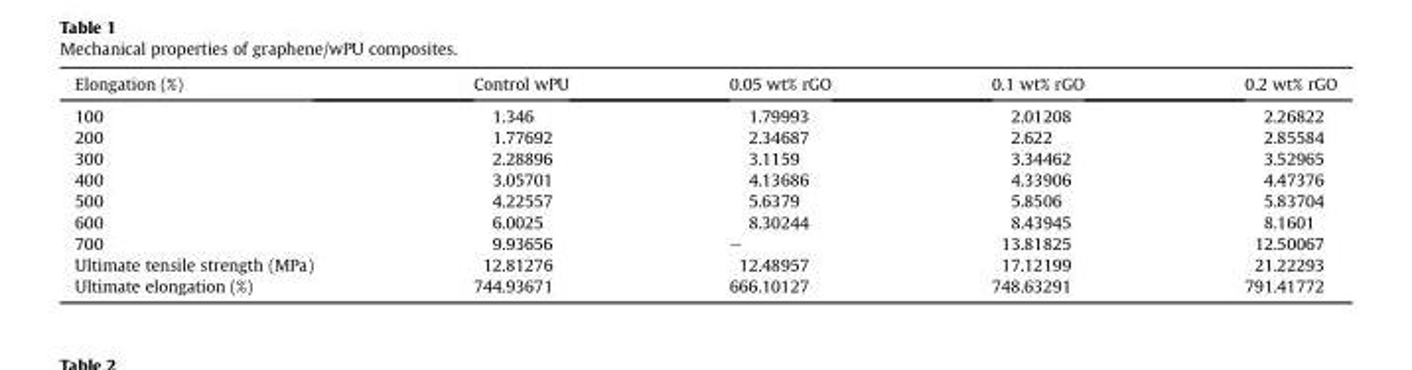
<table><thead><tr><td>Elongation (%)</td><td>Control wPU</td><td>0.05 wt% rGO</td><td>0.1 wt% rGO</td><td>0.2 wt% rGO</td></tr></thead><tbody><tr><td>100</td><td>1.346</td><td>1.79993</td><td>2.01208</td><td>2.26822</td></tr><tr><td>200</td><td>1.77692</td><td>2.34687</td><td>2.622</td><td>2.85584</td></tr><tr><td>300</td><td>2.28896</td><td>3.1159</td><td>3.34462</td><td>3.52965</td></tr><tr><td>400</td><td>3.05701</td><td>4.13686</td><td>4.33906</td><td>4.47376</td></tr><tr><td>500</td><td>4.22557</td><td>5.6379</td><td>5.8506</td><td>5.83704</td></tr><tr><td>600</td><td>6.0025</td><td>8.30244</td><td>8.43945</td><td>8.1601</td></tr><tr><td>700</td><td>9.93656</td><td>–</td><td>13.81825</td><td>12.50067</td></tr><tr><td>Ultimate tensile strength (MPa)</td><td>12.81276</td><td>12.48957</td><td>17.12199</td><td>21.22293</td></tr><tr><td>Ultimate elongation (%)</td><td>744.93671</td><td>666.10127</td><td>748.63291</td><td>791.41772</td></tr></tbody></table>